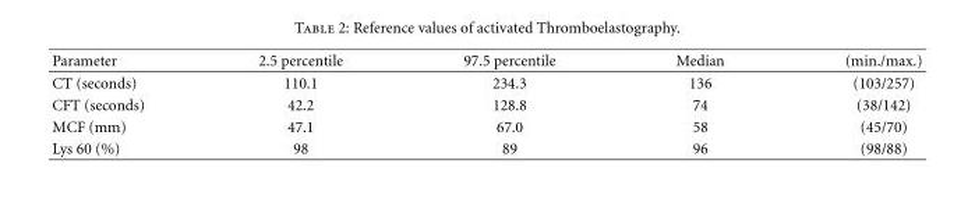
<table><thead><tr><td>Parameter</td><td>2.5 percentile</td><td>97.5 percentile</td><td>Median</td><td>(min./max.)</td></tr></thead><tbody><tr><td>CT (seconds)</td><td>110.1</td><td>234.3</td><td>136</td><td>(103/257)</td></tr><tr><td>CFT (seconds)</td><td>42.2</td><td>128.8</td><td>74</td><td>(38/142)</td></tr><tr><td>MCF (mm)</td><td>47.1</td><td>67.0</td><td>58</td><td>(45/70)</td></tr><tr><td>Lys 60 (%)</td><td>98</td><td>89</td><td>96</td><td>(98/88)</td></tr></tbody></table>